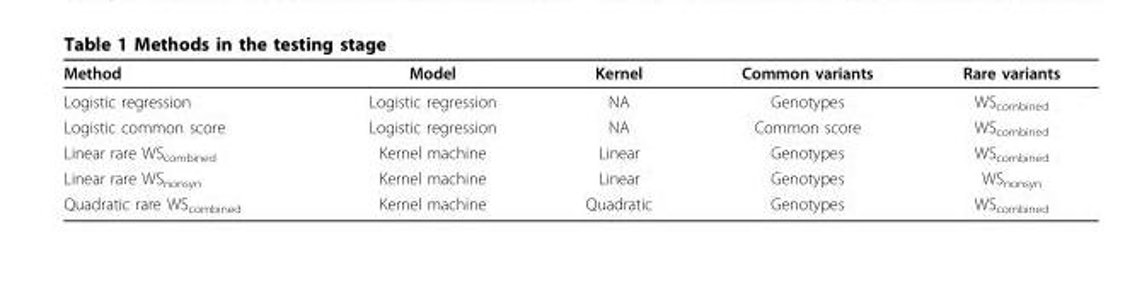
<table><thead><tr><td>Method</td><td>Model</td><td>Kernel</td><td>Common variants</td><td>Rare variants</td></tr></thead><tbody><tr><td>Logistic regression</td><td>Logistic regression</td><td>NA</td><td>Genotypes</td><td>WS<sub>combined</sub></td></tr><tr><td>Logistic common score</td><td>Logistic regression</td><td>NA</td><td>Common score</td><td>WS<sub>combined</sub></td></tr><tr><td>Linear rare WS<sub>combined</sub></td><td>Kernel machine</td><td>Linear</td><td>Genotypes</td><td>WS<sub>combined</sub></td></tr><tr><td>Linear rare WS<sub>nonsyn</sub></td><td>Kernel machine</td><td>Linear</td><td>Genotypes</td><td>WS<sub>nonsyn</sub></td></tr><tr><td>Quadratic rare WS<sub>combined</sub></td><td>Kernel machine</td><td>Quadratic</td><td>Genotypes</td><td>WS<sub>combined</sub></td></tr></tbody></table>